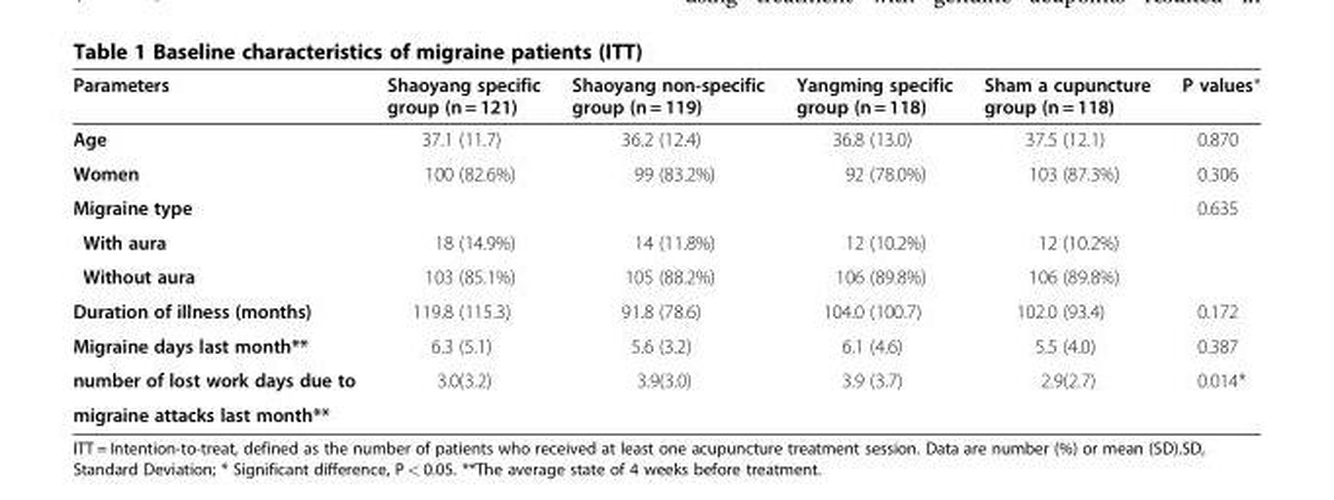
<table><thead><tr><td>Parameters</td><td>Shaoyang specific group (n = 121)</td><td>Shaoyang non-specific group (n = 119)</td><td>Yangming specific group (n = 118)</td><td>Sham a cupuncture group (n = 118)</td><td>P values*</td></tr></thead><tbody><tr><td>Age</td><td>37.1 (11.7)</td><td>36.2 (12.4)</td><td>36.8 (13.0)</td><td>37.5 (12.1)</td><td>0.870</td></tr><tr><td>Women</td><td>100 (82.6%)</td><td>99 (83.2%)</td><td>92 (78.0%)</td><td>103 (87.3%)</td><td>0.306</td></tr><tr><td>Migraine type</td><td></td><td></td><td></td><td></td><td>0.635</td></tr><tr><td>With aura</td><td>18 (14.9%)</td><td>14 (11.8%)</td><td>12 (10.2%)</td><td>12 (10.2%)</td><td></td></tr><tr><td>Without aura</td><td>103 (85.1%)</td><td>105 (88.2%)</td><td>106 (89.8%)</td><td>106 (89.8%)</td><td></td></tr><tr><td>Duration of illness (months)</td><td>119.8 (115.3)</td><td>91.8 (78.6)</td><td>104.0 (100.7)</td><td>102.0 (93.4)</td><td>0.172</td></tr><tr><td>Migraine days last month**</td><td>6.3 (5.1)</td><td>5.6 (3.2)</td><td>6.1 (4.6)</td><td>5.5 (4.0)</td><td>0.387</td></tr><tr><td>number of lost work days due to</td><td>3.0(3.2)</td><td>3.9(3.0)</td><td>3.9 (3.7)</td><td>2.9(2.7)</td><td>0.014*</td></tr><tr><td>migraine attacks last month**</td><td></td><td></td><td></td><td></td><td></td></tr></tbody></table>